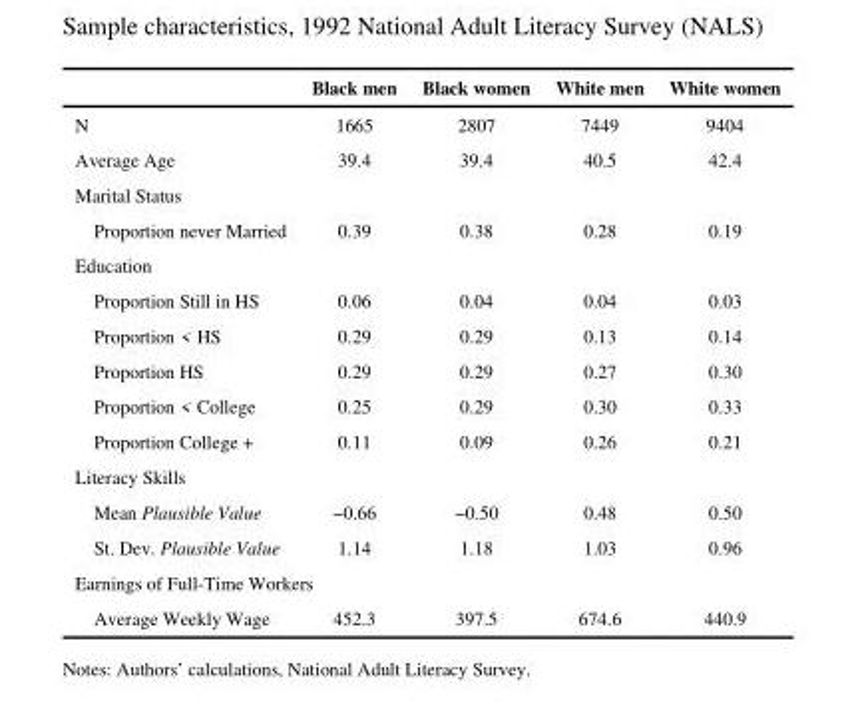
<table><thead><tr><td></td><td>Black men</td><td>Black women</td><td>White men</td><td>White women</td></tr></thead><tbody><tr><td>N</td><td>1665</td><td>2807</td><td>7449</td><td>9404</td></tr><tr><td>Average Age</td><td>39.4</td><td>39.4</td><td>40.5</td><td>42.4</td></tr><tr><td colspan="5">Marital Status</td></tr><tr><td>Proportion never Married</td><td>0.39</td><td>0.38</td><td>0.28</td><td>0.19</td></tr><tr><td colspan="5">Education</td></tr><tr><td>Proportion Still in HS</td><td>0.06</td><td>0.04</td><td>0.04</td><td>0.03</td></tr><tr><td>Proportion &lt; HS</td><td>0.29</td><td>0.29</td><td>0.13</td><td>0.14</td></tr><tr><td>Proportion HS</td><td>0.29</td><td>0.29</td><td>0.27</td><td>0.30</td></tr><tr><td>Proportion &lt; College</td><td>0.25</td><td>0.29</td><td>0.30</td><td>0.33</td></tr><tr><td>Proportion College +</td><td>0.11</td><td>0.09</td><td>0.26</td><td>0.21</td></tr><tr><td colspan="5">Literacy Skills</td></tr><tr><td>Mean Plausible Value</td><td>−0.66</td><td>−0.50</td><td>0.48</td><td>0.50</td></tr><tr><td>St. Dev. Plausible Value</td><td>1.14</td><td>1.18</td><td>1.03</td><td>0.96</td></tr><tr><td colspan="5">Earnings of Full-Time Workers</td></tr><tr><td>Average Weekly Wage</td><td>452.3</td><td>397.5</td><td>674.6</td><td>440.9</td></tr></tbody></table>